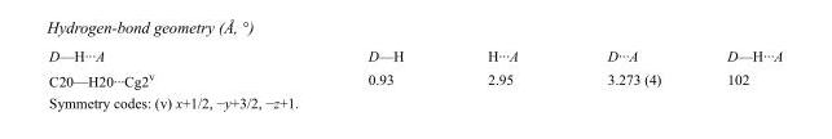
<table><tbody><tr><td>D—H···A</td><td>D—H</td><td>H···A</td><td>D···A</td><td>D—H···A</td></tr><tr><td>C20—H20···Cg2<sup>v</sup></td><td>0.93</td><td>2.95</td><td>3.273 (4)</td><td>102</td></tr></tbody></table>